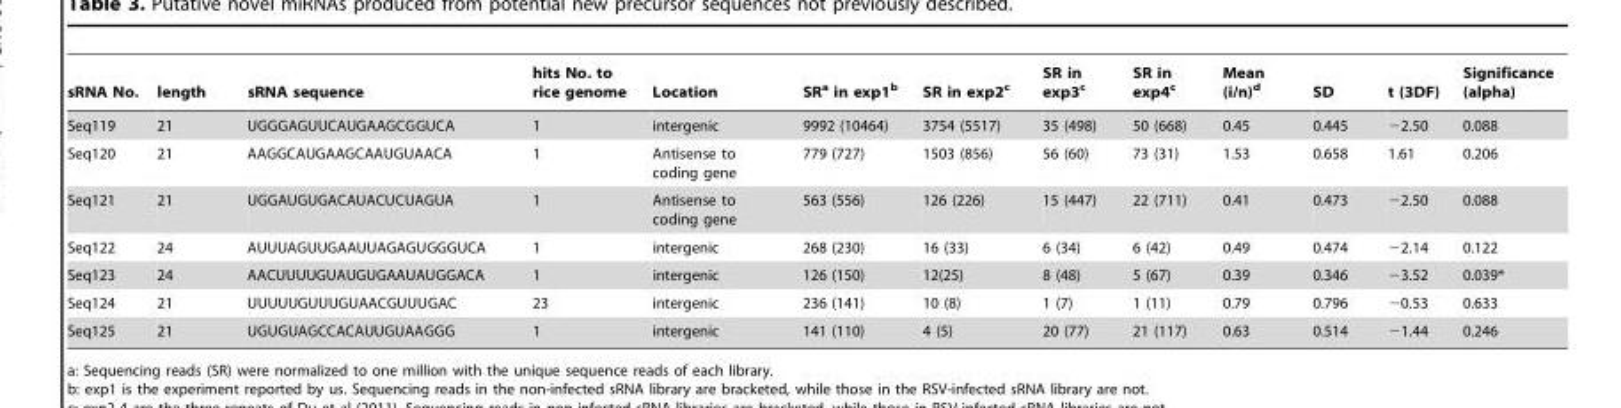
<table><thead><tr><td>sRNA No.</td><td>length</td><td>sRNA sequence</td><td>hits No. to rice genome</td><td>Location</td><td>SR<sup>a</sup> in exp1<sup>b</sup></td><td>SR in exp2<sup>c</sup></td><td>SR in exp3<sup>c</sup></td><td>SR in exp4<sup>c</sup></td><td>Mean (i/n)<sup>d</sup></td><td>SD</td><td>t (3DF)</td><td>Significance (alpha)</td></tr></thead><tbody><tr><td>Seq119</td><td>21</td><td>UGGGAGUUCAUGAAGCGGUCA</td><td>1</td><td>intergenic</td><td>9992 (10464)</td><td>3754 (5517)</td><td>35 (498)</td><td>50 (668)</td><td>0.45</td><td>0.445</td><td>−2.50</td><td>0.088</td></tr><tr><td>Seq120</td><td>21</td><td>AAGGCAUGAAGCAAUGUAACA</td><td>1</td><td>Antisense to coding gene</td><td>779 (727)</td><td>1503 (856)</td><td>56 (60)</td><td>73 (31)</td><td>1.53</td><td>0.658</td><td>1.61</td><td>0.206</td></tr><tr><td>Seq121</td><td>21</td><td>UGGAUGUGACAUACUCUAGUA</td><td>1</td><td>Antisense to coding gene</td><td>563 (556)</td><td>126 (226)</td><td>15 (447)</td><td>22 (711)</td><td>0.41</td><td>0.473</td><td>−2.50</td><td>0.088</td></tr><tr><td>Seq122</td><td>24</td><td>AUUUAGUUGAAUUAGAGUGGGUCA</td><td>1</td><td>intergenic</td><td>268 (230)</td><td>16 (33)</td><td>6 (34)</td><td>6 (42)</td><td>0.49</td><td>0.474</td><td>−2.14</td><td>0.122</td></tr><tr><td>Seq123</td><td>24</td><td>AACUUUUGUAUGUGAAUAUGGACA</td><td>1</td><td>intergenic</td><td>126 (150)</td><td>12(25)</td><td>8 (48)</td><td>5 (67)</td><td>0.39</td><td>0.346</td><td>−3.52</td><td>0.039*</td></tr><tr><td>Seq124</td><td>21</td><td>UUUUUGUUUGUAACGUUUGAC</td><td>23</td><td>intergenic</td><td>236 (141)</td><td>10 (8)</td><td>1 (7)</td><td>1 (11)</td><td>0.79</td><td>0.796</td><td>−0.53</td><td>0.633</td></tr><tr><td>Seq125</td><td>21</td><td>UGUGUAGCCACAUUGUAAGGG</td><td>1</td><td>intergenic</td><td>141 (110)</td><td>4 (5)</td><td>20 (77)</td><td>21 (117)</td><td>0.63</td><td>0.514</td><td>−1.44</td><td>0.246</td></tr></tbody></table>